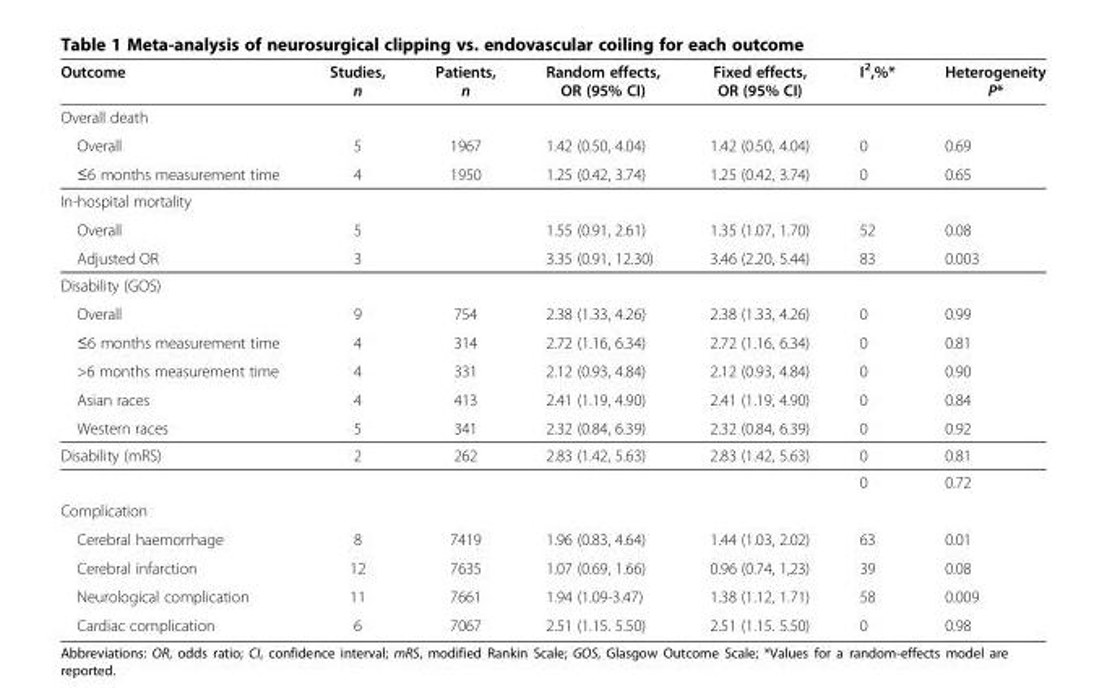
<table><thead><tr><td>Outcome</td><td>Studies, n</td><td>Patients, n</td><td>Random effects, OR (95% CI)</td><td>Fixed effects, OR (95% CI)</td><td>I<sup>2</sup>,%*</td><td>Heterogeneity P*</td></tr></thead><tbody><tr><td colspan="7">Overall death</td></tr><tr><td>Overall</td><td>5</td><td>1967</td><td>1.42 (0.50, 4.04)</td><td>1.42 (0.50, 4.04)</td><td>0</td><td>0.69</td></tr><tr><td>≤6 months measurement time</td><td>4</td><td>1950</td><td>1.25 (0.42, 3.74)</td><td>1.25 (0.42, 3.74)</td><td>0</td><td>0.65</td></tr><tr><td colspan="7">In-hospital mortality</td></tr><tr><td>Overall</td><td>5</td><td></td><td>1.55 (0.91, 2.61)</td><td>1.35 (1.07, 1.70)</td><td>52</td><td>0.08</td></tr><tr><td>Adjusted OR</td><td>3</td><td></td><td>3.35 (0.91, 12.30)</td><td>3.46 (2.20, 5.44)</td><td>83</td><td>0.003</td></tr><tr><td colspan="7">Disability (GOS)</td></tr><tr><td>Overall</td><td>9</td><td>754</td><td>2.38 (1.33, 4.26)</td><td>2.38 (1.33, 4.26)</td><td>0</td><td>0.99</td></tr><tr><td>≤6 months measurement time</td><td>4</td><td>314</td><td>2.72 (1.16, 6.34)</td><td>2.72 (1.16, 6.34)</td><td>0</td><td>0.81</td></tr><tr><td>&gt;6 months measurement time</td><td>4</td><td>331</td><td>2.12 (0.93, 4.84)</td><td>2.12 (0.93, 4.84)</td><td>0</td><td>0.90</td></tr><tr><td>Asian races</td><td>4</td><td>413</td><td>2.41 (1.19, 4.90)</td><td>2.41 (1.19, 4.90)</td><td>0</td><td>0.84</td></tr><tr><td>Western races</td><td>5</td><td>341</td><td>2.32 (0.84, 6.39)</td><td>2.32 (0.84, 6.39)</td><td>0</td><td>0.92</td></tr><tr><td rowspan="2">Disability (mRS)</td><td>2</td><td>262</td><td>2.83 (1.42, 5.63)</td><td>2.83 (1.42, 5.63)</td><td>0</td><td>0.81</td></tr><tr><td></td><td></td><td></td><td></td><td>0</td><td>0.72</td></tr><tr><td colspan="7">Complication</td></tr><tr><td>Cerebral haemorrhage</td><td>8</td><td>7419</td><td>1.96 (0.83, 4.64)</td><td>1.44 (1.03, 2.02)</td><td>63</td><td>0.01</td></tr><tr><td>Cerebral infarction</td><td>12</td><td>7635</td><td>1.07 (0.69, 1.66)</td><td>0.96 (0.74, 1,23)</td><td>39</td><td>0.08</td></tr><tr><td>Neurological complication</td><td>11</td><td>7661</td><td>1.94 (1.09-3.47)</td><td>1.38 (1.12, 1.71)</td><td>58</td><td>0.009</td></tr><tr><td>Cardiac complication</td><td>6</td><td>7067</td><td>2.51 (1.15. 5.50)</td><td>2.51 (1.15. 5.50)</td><td>0</td><td>0.98</td></tr></tbody></table>